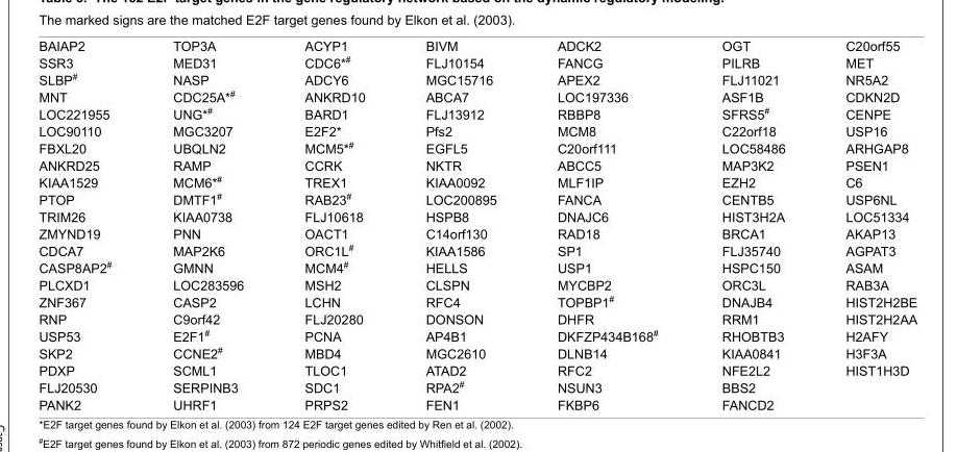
<table><tbody><tr><td>BAIAP2</td><td>TOP3A</td><td>ACYP1</td><td>BIVM</td><td>ADCK2</td><td>OGT</td><td>C20orf55</td></tr><tr><td>SSR3</td><td>MED31</td><td>CDC6*#</td><td>FLJ10154</td><td>FANCG</td><td>PILRB</td><td>MET</td></tr><tr><td>SLBP#</td><td>NASP</td><td>ADCY6</td><td>MGC15716</td><td>APEX2</td><td>FLJ11021</td><td>NR5A2</td></tr><tr><td>MNT</td><td>CDC25A*#</td><td>ANKRD10</td><td>ABCA7</td><td>LOC197336</td><td>ASF1B</td><td>CDKN2D</td></tr><tr><td>LOC221955</td><td>UNG*#</td><td>BARD1</td><td>FLJ13912</td><td>RBBP8</td><td>SFRS5#</td><td>CENPE</td></tr><tr><td>LOC90110</td><td>MGC3207</td><td>E2F2*</td><td>Pfs2</td><td>MCM8</td><td>C22orf18</td><td>USP16</td></tr><tr><td>FBXL20</td><td>UBQLN2</td><td>MCM5*#</td><td>EGFL5</td><td>C20orf111</td><td>LOC58486</td><td>ARHGAP8</td></tr><tr><td>ANKRD25</td><td>RAMP</td><td>CCRK</td><td>NKTR</td><td>ABCC5</td><td>MAP3K2</td><td>PSEN1</td></tr><tr><td>KIAA1529</td><td>MCM6*#</td><td>TREX1</td><td>KIAA0092</td><td>MLF1IP</td><td>EZH2</td><td>C6</td></tr><tr><td>PTOP</td><td>DMTF1#</td><td>RAB23#</td><td>LOC200895</td><td>FANCA</td><td>CENTB5</td><td>USP6NL</td></tr><tr><td>TRIM26</td><td>KIAA0738</td><td>FLJ10618</td><td>HSPB8</td><td>DNAJC6</td><td>HIST3H2A</td><td>LOC51334</td></tr><tr><td>ZMYND19</td><td>PNN</td><td>OACT1</td><td>C14orf130</td><td>RAD18</td><td>BRCA1</td><td>AKAP13</td></tr><tr><td>CDCA7</td><td>MAP2K6</td><td>ORC1L#</td><td>KIAA1586</td><td>SP1</td><td>FLJ35740</td><td>AGPAT3</td></tr><tr><td>CASP8AP2#</td><td>GMNN</td><td>MCM4#</td><td>HELLS</td><td>USP1</td><td>HSPC150</td><td>ASAM</td></tr><tr><td>PLCXD1</td><td>LOC283596</td><td>MSH2</td><td>CLSPN</td><td>MYCBP2</td><td>ORC3L</td><td>RAB3A</td></tr><tr><td>ZNF367</td><td>CASP2</td><td>LCHN</td><td>RFC4</td><td>TOPBP1#</td><td>DNAJB4</td><td>HIST2H2BE</td></tr><tr><td>RNP</td><td>C9orf42</td><td>FLJ20280</td><td>DONSON</td><td>DHFR</td><td>RRM1</td><td>HIST2H2AA</td></tr><tr><td>USP53</td><td>E2F1#</td><td>PCNA</td><td>AP4B1</td><td>DKFZP434B168#</td><td>RHOBTB3</td><td>H2AFY</td></tr><tr><td>SKP2</td><td>CCNE2#</td><td>MBD4</td><td>MGC2610</td><td>DLNB14</td><td>KIAA0841</td><td>H3F3A</td></tr><tr><td>PDXP</td><td>SCML1</td><td>TLOC1</td><td>ATAD2</td><td>RFC2</td><td>NFE2L2</td><td>HIST1H3D</td></tr><tr><td>FLJ20530</td><td>SERPINB3</td><td>SDC1</td><td>RPA2#</td><td>NSUN3</td><td>BBS2</td><td></td></tr><tr><td>PANK2</td><td>UHRF1</td><td>PRPS2</td><td>FEN1</td><td>FKBP6</td><td>FANCD2</td><td></td></tr></tbody></table>